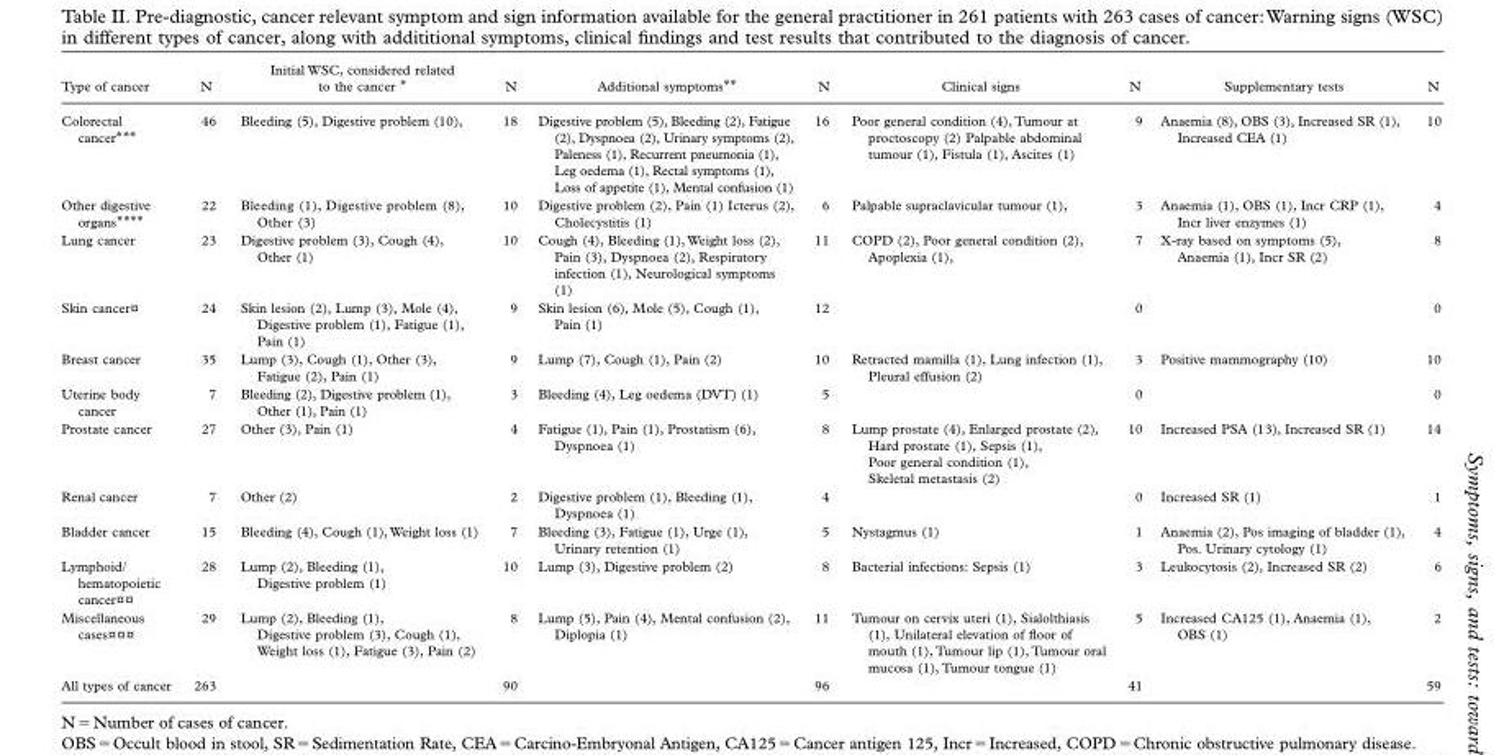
<table><thead><tr><td>Type of cancer</td><td>N</td><td>Initial WSC, considered related to the cancer *</td><td>N</td><td>Additional symptoms * *</td><td>N</td><td>Clinical signs</td><td>N</td><td>Supplementary tests</td><td>N</td></tr></thead><tbody><tr><td>Colorectal cancer * * *</td><td>46</td><td>Bleeding (5), Digestive problem (10),</td><td>18</td><td>Digestive problem (5), Bleeding (2), Fatigue (2), Dyspnoea (2), Urinary symptoms (2), Paleness (1), Recurrent pneumonia (1), Leg oedema (1), Rectal symptoms (1), Loss of appetite (1), Mental confusion (1)</td><td>16</td><td>Poor general condition (4), Tumour at proctoscopy (2) Palpable abdominal tumour (1), Fistula (1), Ascites (1)</td><td>9</td><td>Anaemia (8), OBS (3), Increased SR (1), Increased CEA (1)</td><td>10</td></tr><tr><td>Other digestive organs * * * *</td><td>22</td><td>Bleeding (1), Digestive problem (8), Other (3)</td><td>10</td><td>Digestive problem (2), Pain (1) Icterus (2), Cholecystitis (1)</td><td>6</td><td>Palpable supraclavicular tumour (1),</td><td>3</td><td>Anaemia (1), OBS (1), Incr CRP (1), Incr liver enzymes (1)</td><td>4</td></tr><tr><td>Lung cancer</td><td>23</td><td>Digestive problem (3), Cough (4), Other (1)</td><td>10</td><td>Cough (4), Bleeding (1), Weight loss (2), Pain (3), Dyspnoea (2), Respiratory infection (1), Neurological symptoms (1)</td><td>11</td><td>COPD (2), Poor general condition (2), Apoplexia (1),</td><td>7</td><td>X-ray based on symptoms (5), Anaemia (1), Incr SR (2)</td><td>8</td></tr><tr><td>Skin cancer ¤</td><td>24</td><td>Skin lesion (2), Lump (3), Mole (4), Digestive problem (1), Fatigue (1), Pain (1)</td><td>9</td><td>Skin lesion (6), Mole (5), Cough (1), Pain (1)</td><td>12</td><td></td><td>0</td><td></td><td>0</td></tr><tr><td>Breast cancer</td><td>35</td><td>Lump (3), Cough (1), Other (3), Fatigue (2), Pain (1)</td><td>9</td><td>Lump (7), Cough (1), Pain (2)</td><td>10</td><td>Retracted mamilla (1), Lung infection (1), Pleural effusion (2)</td><td>3</td><td>Positive mammography (10)</td><td>10</td></tr><tr><td>Uterine body cancer</td><td>7</td><td>Bleeding (2), Digestive problem (1), Other (1), Pain (1)</td><td>3</td><td>Bleeding (4), Leg oedema (DVT) (1)</td><td>5</td><td></td><td>0</td><td></td><td>0</td></tr><tr><td>Prostate cancer</td><td>27</td><td>Other (3), Pain (1)</td><td>4</td><td>Fatigue (1), Pain (1), Prostatism (6), Dyspnoea (1)</td><td>8</td><td>Lump prostate (4), Enlarged prostate (2), Hard prostate (1), Sepsis (1), Poor general condition (1), Skeletal metastasis (2)</td><td>10</td><td>Increased PSA (13), Increased SR (1)</td><td>14</td></tr><tr><td>Renal cancer</td><td>7</td><td>Other (2)</td><td>2</td><td>Digestive problem (1), Bleeding (1), Dyspnoea (1)</td><td>4</td><td></td><td>0</td><td>Increased SR (1)</td><td>1</td></tr><tr><td>Bladder cancer</td><td>15</td><td>Bleeding (4), Cough (1), Weight loss (1)</td><td>7</td><td>Bleeding (3), Fatigue (1), Urge (1), Urinary retention (1)</td><td>5</td><td>Nystagmus (1)</td><td>1</td><td>Anaemia (2), Pos imaging of bladder (1), Pos. Urinary cytology (1)</td><td>4</td></tr><tr><td>Lymphoid/ hematopoietic cancer ¤ ¤</td><td>28</td><td>Lump (2), Bleeding (1), Digestive problem (1)</td><td>10</td><td>Lump (3), Digestive problem (2)</td><td>8</td><td>Bacterial infections: Sepsis (1)</td><td>3</td><td>Leukocytosis (2), Increased SR (2)</td><td>6</td></tr><tr><td>Miscellaneous cases ¤ ¤ ¤</td><td>29</td><td>Lump (2), Bleeding (1), Digestive problem (3), Cough (1), Weight loss (1), Fatigue (3), Pain (2)</td><td>8</td><td>Lump (5), Pain (4), Mental confusion (2), Diplopia (1)</td><td>11</td><td>Tumour on cervix uteri (1), Sialolthiasis (1), Unilateral elevation of fl oor of mouth (1), Tumour lip (1), Tumour oral mucosa (1), Tumour tongue (1)</td><td>5</td><td>Increased CA125 (1), Anaemia (1), OBS (1)</td><td>2</td></tr><tr><td>All types of cancer</td><td>263</td><td></td><td>90</td><td></td><td>96</td><td></td><td>41</td><td></td><td>59</td></tr></tbody></table>